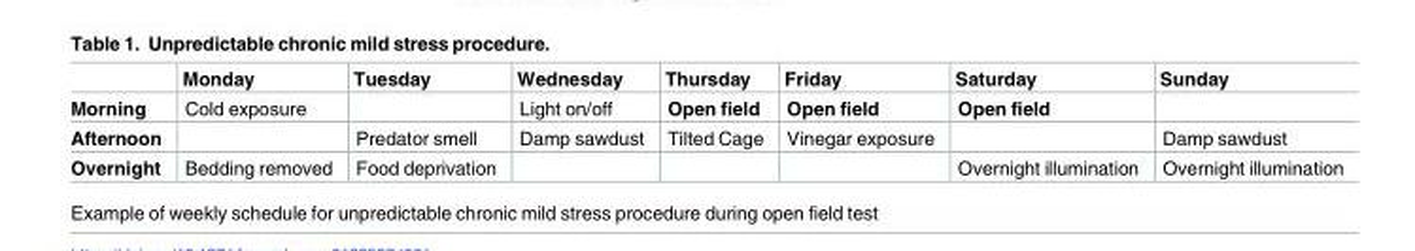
<table><thead><tr><td></td><td>Monday</td><td>Tuesday</td><td>Wednesday</td><td>Thursday</td><td>Friday</td><td>Saturday</td><td>Sunday</td></tr></thead><tbody><tr><td>Morning</td><td>Cold exposure</td><td></td><td>Light on/off</td><td>Open field</td><td>Open field</td><td>Open field</td><td></td></tr><tr><td>Afternoon</td><td></td><td>Predator smell</td><td>Damp sawdust</td><td>Tilted Cage</td><td>Vinegar exposure</td><td></td><td>Damp sawdust</td></tr><tr><td>Overnight</td><td>Bedding removed</td><td>Food deprivation</td><td></td><td></td><td></td><td>Overnight illumination</td><td>Overnight illumination</td></tr></tbody></table>